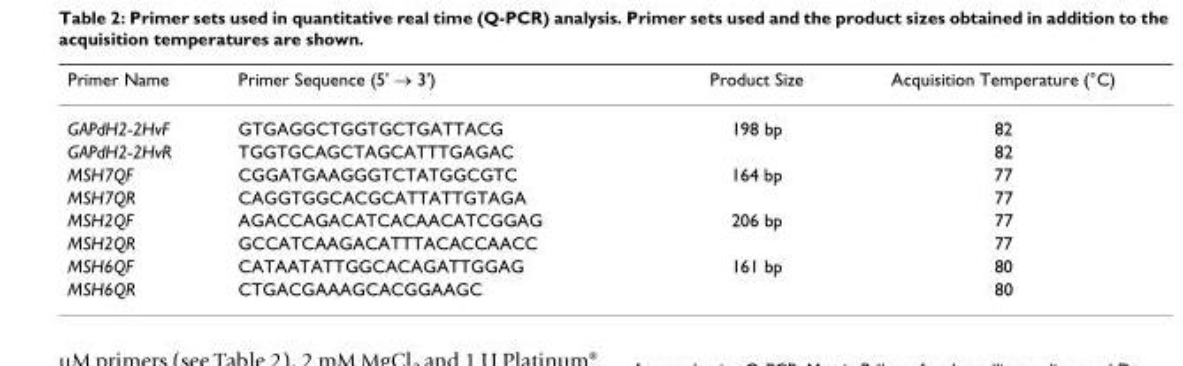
<table><thead><tr><td>Primer Name</td><td>Primer Sequence (5&#x27; → 3&#x27;)</td><td>Product Size</td><td>Acquisition Temperature (°C)</td></tr></thead><tbody><tr><td>GAPdH2-2HvF</td><td>GTGAGGCTGGTGCTGATTACG</td><td>198 bp</td><td>82</td></tr><tr><td>GAPdH2-2HvR</td><td>TGGTGCAGCTAGCATTTGAGAC</td><td></td><td>82</td></tr><tr><td>MSH7QF</td><td>CGGATGAAGGGTCTATGGCGTC</td><td>164 bp</td><td>77</td></tr><tr><td>MSH7QR</td><td>CAGGTGGCACGCATTATTGTAGA</td><td></td><td>77</td></tr><tr><td>MSH2QF</td><td>AGACCAGACATCACAACATCGGAG</td><td>206 bp</td><td>77</td></tr><tr><td>MSH2QR</td><td>GCCATCAAGACATTTACACCAACC</td><td></td><td>77</td></tr><tr><td>MSH6QF</td><td>CATAATATTGGCACAGATTGGAG</td><td>161 bp</td><td>80</td></tr><tr><td>MSH6QR</td><td>CTGACGAAAGCACGGAAGC</td><td></td><td>80</td></tr></tbody></table>